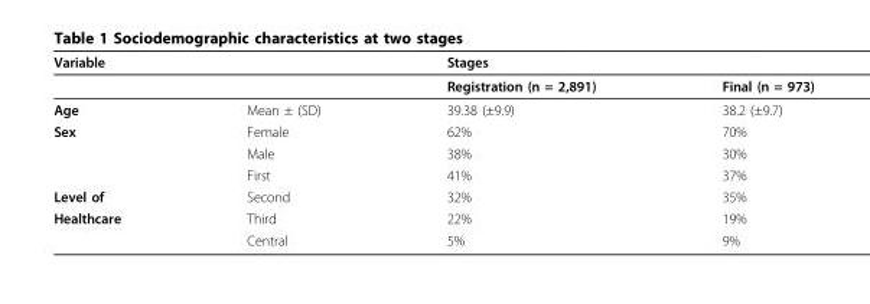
<table><thead><tr><td>Variable</td><td></td><td>Stages</td><td></td></tr></thead><tbody><tr><td></td><td></td><td>Registration (n = 2,891)</td><td>Final (n = 973)</td></tr><tr><td>Age</td><td>Mean ± (SD)</td><td>39.38 (±9.9)</td><td>38.2 (±9.7)</td></tr><tr><td rowspan="3">Sex</td><td>Female</td><td>62%</td><td>70%</td></tr><tr><td>Male</td><td>38%</td><td>30%</td></tr><tr><td>First</td><td>41%</td><td>37%</td></tr><tr><td>Level of</td><td>Second</td><td>32%</td><td>35%</td></tr><tr><td rowspan="2">Healthcare</td><td>Third</td><td>22%</td><td>19%</td></tr><tr><td>Central</td><td>5%</td><td>9%</td></tr></tbody></table>